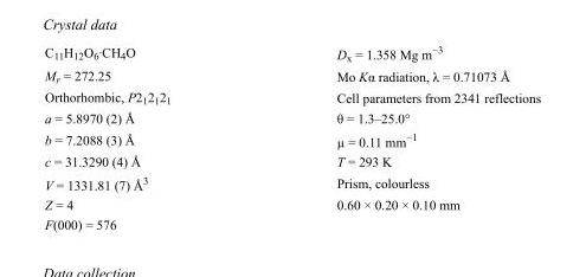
<table><tbody><tr><td>C<sub>11</sub>H<sub>12</sub>O<sub>6</sub>·CH<sub>4</sub>O</td><td>D<sub>x</sub> = 1.358 Mg m<sup>−3</sup></td></tr><tr><td>M<sub>r</sub> = 272.25</td><td>Mo Kα radiation, λ = 0.71073 Å</td></tr><tr><td>Orthorhombic, P2<sub>1</sub>2<sub>1</sub>2<sub>1</sub></td><td>Cell parameters from 2341 reflections</td></tr><tr><td>a = 5.8970 (2) Å</td><td>θ = 1.3–25.0°</td></tr><tr><td>b = 7.2088 (3) Å</td><td>µ = 0.11 mm<sup>−1</sup></td></tr><tr><td>c = 31.3290 (4) Å</td><td>T = 293 K</td></tr><tr><td>V = 1331.81 (7) Å<sup>3</sup></td><td>Prism, colourless</td></tr><tr><td>Z = 4</td><td>0.60 × 0.20 × 0.10 mm</td></tr><tr><td>F(000) = 576</td><td></td></tr></tbody></table>